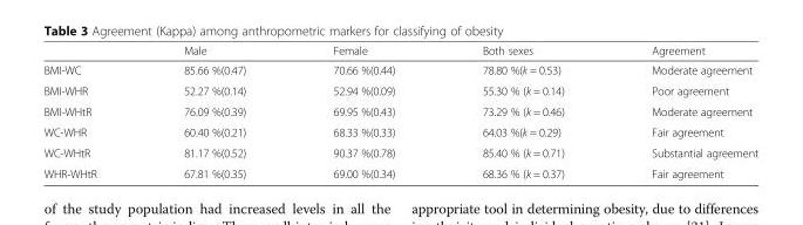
<table><thead><tr><td></td><td>Male</td><td>Female</td><td>Both sexes</td><td>Agreement</td></tr></thead><tbody><tr><td>BMI-WC</td><td>85.66 %(0.47)</td><td>70.66 %(0.44)</td><td>78.80 %(k = 0.53)</td><td>Moderate agreement</td></tr><tr><td>BMI-WHR</td><td>52.27 %(0.14)</td><td>52.94 %(0.09)</td><td>55.30 % (k = 0.14)</td><td>Poor agreement</td></tr><tr><td>BMI-WHtR</td><td>76.09 %(0.39)</td><td>69.95 %(0.43)</td><td>73.29 % (k = 0.46)</td><td>Moderate agreement</td></tr><tr><td>WC-WHR</td><td>60.40 %(0.21)</td><td>68.33 %(0.33)</td><td>64.03 %(k = 0.29)</td><td>Fair agreement</td></tr><tr><td>WC-WHtR</td><td>81.17 %(0.52)</td><td>90.37 %(0.78)</td><td>85.40 % (k = 0.71)</td><td>Substantial agreement</td></tr><tr><td>WHR-WHtR</td><td>67.81 %(0.35)</td><td>69.00 %(0.34)</td><td>68.36 % (k = 0.37)</td><td>Fair agreement</td></tr></tbody></table>